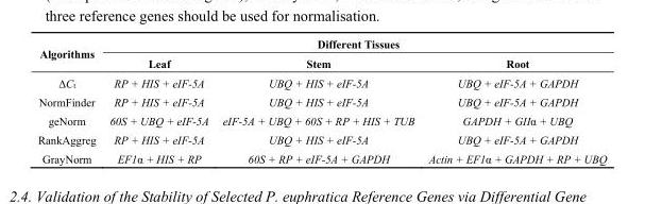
<table><thead><tr><td rowspan="2">Algorithms</td><td colspan="3">Different Tissues</td></tr><tr><td>Leaf</td><td>Stem</td><td>Root</td></tr></thead><tbody><tr><td>ΔC<sub>t</sub></td><td>RP + HIS + eIF-5A</td><td>UBQ + HIS + eIF-5A</td><td>UBQ + eIF-5A + GAPDH</td></tr><tr><td>NormFinder</td><td>RP + HIS + eIF-5A</td><td>UBQ + HIS + eIF-5A</td><td>UBQ + eIF-5A + GAPDH</td></tr><tr><td>geNorm</td><td>60S + UBQ + eIF-5A</td><td>eIF-5A + UBQ + 60S + RP + HIS + TUB</td><td>GAPDH + GIIα + UBQ</td></tr><tr><td>RankAggreg</td><td>RP + HIS + eIF-5A</td><td>UBQ + HIS + eIF-5A</td><td>UBQ + eIF-5A + GAPDH</td></tr><tr><td>GrayNorm</td><td>EF1α + HIS + RP</td><td>60S + RP + eIF-5A + GAPDH</td><td>Actin + EF1α + GAPDH + RP + UBQ</td></tr></tbody></table>